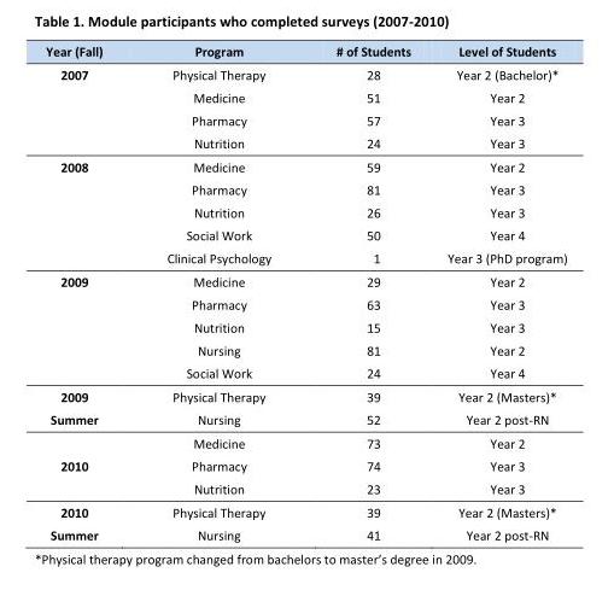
<table><thead><tr><td>Year (Fall)</td><td>Program</td><td># of Students</td><td>Level of Students</td></tr></thead><tbody><tr><td rowspan="4">2007</td><td>Physical Therapy</td><td>28</td><td>Year 2 (Bachelor)*</td></tr><tr><td>Medicine</td><td>51</td><td>Year 2</td></tr><tr><td>Pharmacy</td><td>57</td><td>Year 3</td></tr><tr><td>Nutrition</td><td>24</td><td>Year 3</td></tr><tr><td rowspan="5">2008</td><td>Medicine</td><td>59</td><td>Year 2</td></tr><tr><td>Pharmacy</td><td>81</td><td>Year 3</td></tr><tr><td>Nutrition</td><td>26</td><td>Year 3</td></tr><tr><td>Social Work</td><td>50</td><td>Year 4</td></tr><tr><td>Clinical Psychology</td><td>1</td><td>Year 3 (PhD program)</td></tr><tr><td rowspan="5">2009</td><td>Medicine</td><td>29</td><td>Year 2</td></tr><tr><td>Pharmacy</td><td>63</td><td>Year 3</td></tr><tr><td>Nutrition</td><td>15</td><td>Year 3</td></tr><tr><td>Nursing</td><td>81</td><td>Year 2</td></tr><tr><td>Social Work</td><td>24</td><td>Year 4</td></tr><tr><td rowspan="2">2009 Summer</td><td>Physical Therapy</td><td>39</td><td>Year 2 (Masters)*</td></tr><tr><td>Nursing</td><td>52</td><td>Year 2 post-RN</td></tr><tr><td rowspan="3">2010</td><td>Medicine</td><td>73</td><td>Year 2</td></tr><tr><td>Pharmacy</td><td>74</td><td>Year 3</td></tr><tr><td>Nutrition</td><td>23</td><td>Year 3</td></tr><tr><td rowspan="2">2010 Summer</td><td>Physical Therapy</td><td>39</td><td>Year 2 (Masters)*</td></tr><tr><td>Nursing</td><td>41</td><td>Year 2 post-RN</td></tr></tbody></table>